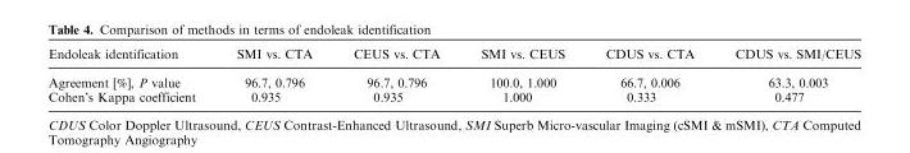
<table><thead><tr><td>Endoleak identification</td><td>SMI vs. CTA</td><td>CEUS vs. CTA</td><td>SMI vs. CEUS</td><td>CDUS vs. CTA</td><td>CDUS vs. SMI/CEUS</td></tr></thead><tbody><tr><td>Agreement [%], P value</td><td>96.7, 0.796</td><td>96.7, 0.796</td><td>100.0, 1.000</td><td>66.7, 0.006</td><td>63.3, 0.003</td></tr><tr><td>Cohen’s Kappa coefficient</td><td>0.935</td><td>0.935</td><td>1.000</td><td>0.333</td><td>0.477</td></tr></tbody></table>